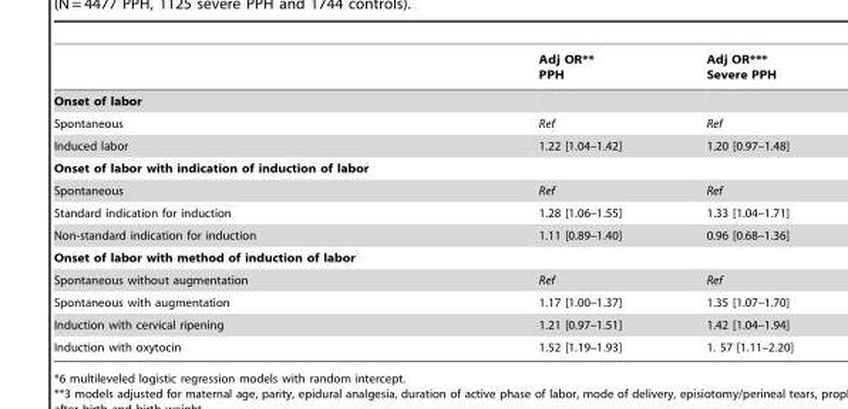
<table><thead><tr><td></td><td>Adj OR** PPH</td><td>Adj OR*** Severe PPH</td></tr></thead><tbody><tr><td colspan="3">Onset of labor</td></tr><tr><td>Spontaneous</td><td>Ref</td><td>Ref</td></tr><tr><td>Induced labor</td><td>1.22 [1.04–1.42]</td><td>1.20 [0.97–1.48]</td></tr><tr><td colspan="3">Onset of labor with indication of induction of labor</td></tr><tr><td>Spontaneous</td><td>Ref</td><td>Ref</td></tr><tr><td>Standard indication for induction</td><td>1.28 [1.06–1.55]</td><td>1.33 [1.04–1.71]</td></tr><tr><td>Non-standard indication for induction</td><td>1.11 [0.89–1.40]</td><td>0.96 [0.68–1.36]</td></tr><tr><td colspan="3">Onset of labor with method of induction of labor</td></tr><tr><td>Spontaneous without augmentation</td><td>Ref</td><td>Ref</td></tr><tr><td>Spontaneous with augmentation</td><td>1.17 [1.00–1.37]</td><td>1.35 [1.07–1.70]</td></tr><tr><td>Induction with cervical ripening</td><td>1.21 [0.97–1.51]</td><td>1.42 [1.04–1.94]</td></tr><tr><td>Induction with oxytocin</td><td>1.52 [1.19–1.93]</td><td>1. 57 [1.11–2.20]</td></tr></tbody></table>